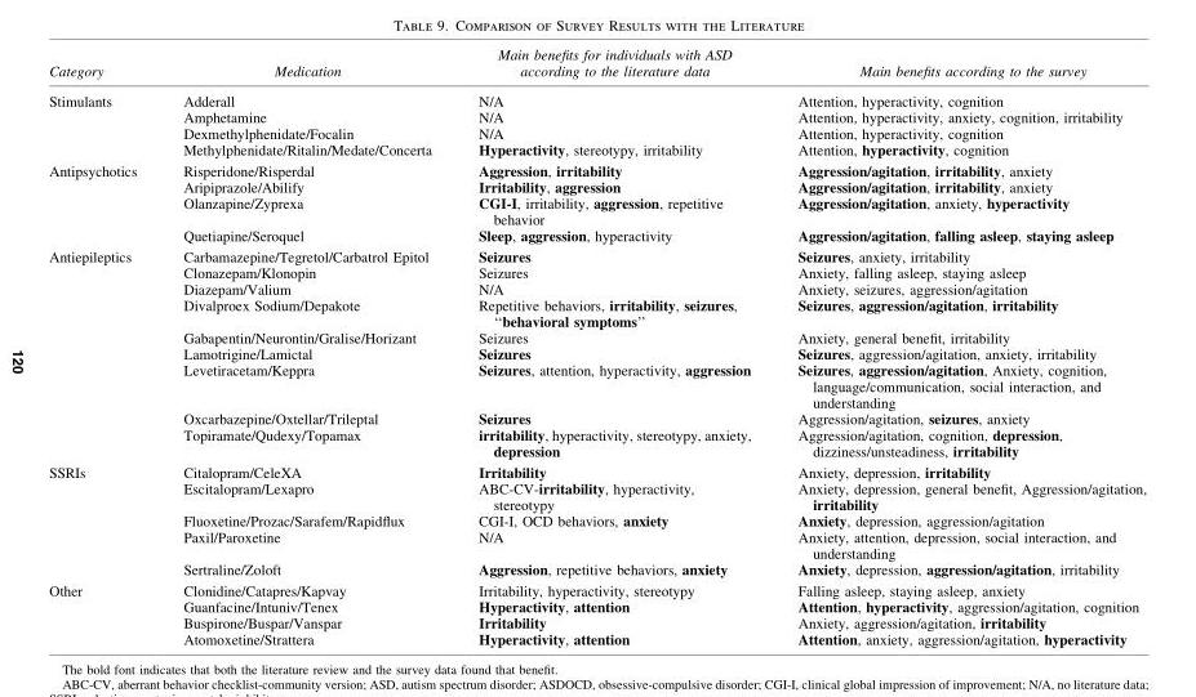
<table><thead><tr><td>Category</td><td>Medication</td><td>Main benefits for individuals with ASD according to the literature data</td><td>Main benefits according to the survey</td></tr></thead><tbody><tr><td rowspan="4">Stimulants</td><td>Adderall</td><td>N/A</td><td>Attention, hyperactivity, cognition</td></tr><tr><td>Amphetamine</td><td>N/A</td><td>Attention, hyperactivity, anxiety, cognition, irritability</td></tr><tr><td>Dexmethylphenidate/Focalin</td><td>N/A</td><td>Attention, hyperactivity, cognition</td></tr><tr><td>Methylphenidate/Ritalin/Medate/Concerta</td><td>Hyperactivity, stereotypy, irritability</td><td>Attention, hyperactivity, cognition</td></tr><tr><td rowspan="4">Antipsychotics</td><td>Risperidone/Risperdal</td><td>Aggression, irritability</td><td>Aggression/agitation, irritability, anxiety</td></tr><tr><td>Aripiprazole/Abilify</td><td>Irritability, aggression</td><td>Aggression/agitation, irritability, anxiety</td></tr><tr><td>Olanzapine/Zyprexa</td><td>CGI-I, irritability, aggression, repetitive behavior</td><td>Aggression/agitation, anxiety, hyperactivity</td></tr><tr><td>Quetiapine/Seroquel</td><td>Sleep, aggression, hyperactivity</td><td>Aggression/agitation, falling asleep, staying asleep</td></tr><tr><td rowspan="9">Antiepileptics</td><td>Carbamazepine/Tegretol/Carbatrol Epitol</td><td>Seizures</td><td>Seizures, anxiety, irritability</td></tr><tr><td>Clonazepam/Klonopin</td><td>Seizures</td><td>Anxiety, falling asleep, staying asleep</td></tr><tr><td>Diazepam/Valium</td><td>N/A</td><td>Anxiety, seizures, aggression/agitation</td></tr><tr><td>Divalproex Sodium/Depakote</td><td>Repetitive behaviors, irritability, seizures, ‘‘behavioral symptoms’’</td><td>Seizures, aggression/agitation, irritability</td></tr><tr><td>Gabapentin/Neurontin/Gralise/Horizant</td><td>Seizures</td><td>Anxiety, general benefit, irritability</td></tr><tr><td>Lamotrigine/Lamictal</td><td>Seizures</td><td>Seizures, aggression/agitation, anxiety, irritability</td></tr><tr><td>Levetiracetam/Keppra</td><td>Seizures, attention, hyperactivity, aggression</td><td>Seizures, aggression/agitation, Anxiety, cognition, language/communication, social interaction, and understanding</td></tr><tr><td>Oxcarbazepine/Oxtellar/Trileptal</td><td>Seizures</td><td>Aggression/agitation, seizures, anxiety</td></tr><tr><td>Topiramate/Qudexy/Topamax</td><td>irritability, hyperactivity, stereotypy, anxiety, depression</td><td>Aggression/agitation, cognition, depression, dizziness/unsteadiness, irritability</td></tr><tr><td rowspan="5">SSRIs</td><td>Citalopram/CeleXA</td><td>Irritability</td><td>Anxiety, depression, irritability</td></tr><tr><td>Escitalopram/Lexapro</td><td>ABC-CV-irritability, hyperactivity, stereotypy</td><td>Anxiety, depression, general benefit, Aggression/agitation, irritability</td></tr><tr><td>Fluoxetine/Prozac/Sarafem/Rapidflux</td><td>CGI-I, OCD behaviors, anxiety</td><td>Anxiety, depression, aggression/agitation</td></tr><tr><td>Paxil/Paroxetine</td><td>N/A</td><td>Anxiety, attention, depression, social interaction, and understanding</td></tr><tr><td>Sertraline/Zoloft</td><td>Aggression, repetitive behaviors, anxiety</td><td>Anxiety, depression, aggression/agitation, irritability</td></tr><tr><td rowspan="4">Other</td><td>Clonidine/Catapres/Kapvay</td><td>Irritability, hyperactivity, stereotypy</td><td>Falling asleep, staying asleep, anxiety</td></tr><tr><td>Guanfacine/Intuniv/Tenex</td><td>Hyperactivity, attention</td><td>Attention, hyperactivity, aggression/agitation, cognition</td></tr><tr><td>Buspirone/Buspar/Vanspar</td><td>Irritability</td><td>Anxiety, aggression/agitation, irritability</td></tr><tr><td>Atomoxetine/Strattera</td><td>Hyperactivity, attention</td><td>Attention, anxiety, aggression/agitation, hyperactivity</td></tr></tbody></table>